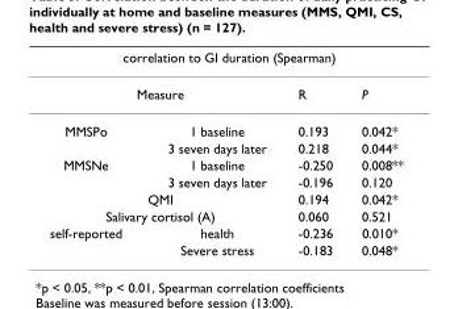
<table><thead><tr><td colspan="4">correlation to GI duration (Spearman)</td></tr><tr><td colspan="2">Measure</td><td rowspan="2">R 0.193</td><td rowspan="2">P 0.042*</td></tr><tr><td>MMSPo</td><td>1 baseline</td></tr></thead><tbody><tr><td></td><td>3 seven days later</td><td>0.218</td><td>0.044*</td></tr><tr><td rowspan="2">MMSNe</td><td>1 baseline</td><td>-0.250</td><td>0.008**</td></tr><tr><td>3 seven days later</td><td>-0.196</td><td>0.120</td></tr><tr><td colspan="2">QMI</td><td>0.194</td><td>0.042*</td></tr><tr><td colspan="2">Salivary cortisol (A)</td><td>0.060</td><td>0.521</td></tr><tr><td rowspan="2">self-reported</td><td>health</td><td>-0.236</td><td>0.010*</td></tr><tr><td>Severe stress</td><td>-0.183</td><td>0.048*</td></tr></tbody></table>